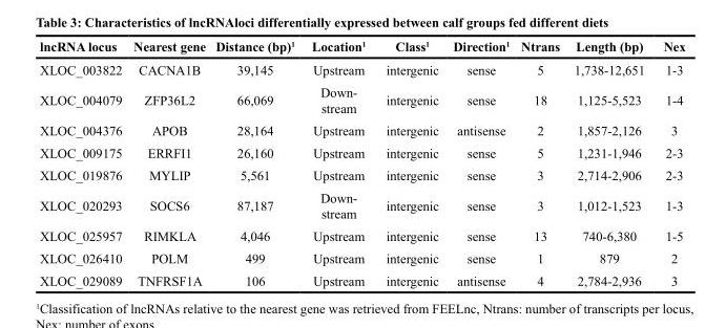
<table><thead><tr><td>lncRNA locus</td><td>Nearest gene</td><td>Distance (bp)<sup>1</sup></td><td>Location<sup>1</sup></td><td>Class<sup>1</sup></td><td>Direction<sup>1</sup></td><td>Ntrans</td><td>Length (bp)</td><td>Nex</td></tr></thead><tbody><tr><td>XLOC_003822</td><td>CACNA1B</td><td>39,145</td><td>Upstream</td><td>intergenic</td><td>sense</td><td>5</td><td>1,738-12,651</td><td>1-3</td></tr><tr><td>XLOC_004079</td><td>ZFP36L2</td><td>66,069</td><td>Down- stream</td><td>intergenic</td><td>sense</td><td>18</td><td>1,125-5,523</td><td>1-4</td></tr><tr><td>XLOC_004376</td><td>APOB</td><td>28,164</td><td>Upstream</td><td>intergenic</td><td>antisense</td><td>2</td><td>1,857-2,126</td><td>3</td></tr><tr><td>XLOC_009175</td><td>ERRFI1</td><td>26,160</td><td>Upstream</td><td>intergenic</td><td>sense</td><td>5</td><td>1,231-1,946</td><td>2-3</td></tr><tr><td>XLOC_019876</td><td>MYLIP</td><td>5,561</td><td>Upstream</td><td>intergenic</td><td>sense</td><td>3</td><td>2,714-2,906</td><td>2-3</td></tr><tr><td>XLOC_020293</td><td>SOCS6</td><td>87,187</td><td>Down- stream</td><td>intergenic</td><td>sense</td><td>3</td><td>1,012-1,523</td><td>1-3</td></tr><tr><td>XLOC_025957</td><td>RIMKLA</td><td>4,046</td><td>Upstream</td><td>intergenic</td><td>sense</td><td>13</td><td>740-6,380</td><td>1-5</td></tr><tr><td>XLOC_026410</td><td>POLM</td><td>499</td><td>Upstream</td><td>intergenic</td><td>sense</td><td>1</td><td>879</td><td>2</td></tr><tr><td>XLOC_029089</td><td>TNFRSF1A</td><td>106</td><td>Upstream</td><td>intergenic</td><td>antisense</td><td>4</td><td>2,784-2,936</td><td>3</td></tr></tbody></table>